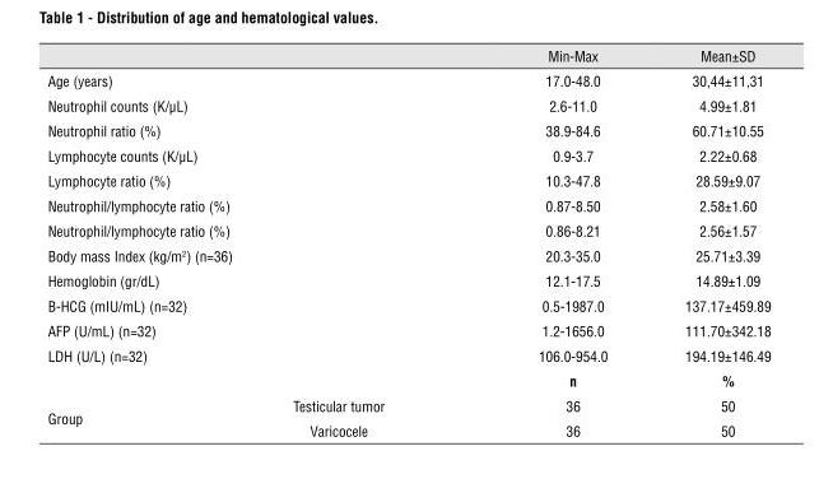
<table><thead><tr><td></td><td></td><td>Min-Max</td><td>Mean±SD</td></tr></thead><tbody><tr><td colspan="2">Age (years)</td><td>17.0-48.0</td><td>30,44±11,31</td></tr><tr><td colspan="2">Neutrophil counts (K/µL)</td><td>2.6-11.0</td><td>4.99±1.81</td></tr><tr><td colspan="2">Neutrophil ratio (%)</td><td>38.9-84.6</td><td>60.71±10.55</td></tr><tr><td colspan="2">Lymphocyte counts (K/µL)</td><td>0.9-3.7</td><td>2.22±0.68</td></tr><tr><td colspan="2">Lymphocyte ratio (%)</td><td>10.3-47.8</td><td>28.59±9.07</td></tr><tr><td colspan="2">Neutrophil/lymphocyte ratio (%)</td><td>0.87-8.50</td><td>2.58±1.60</td></tr><tr><td colspan="2">Neutrophil/lymphocyte ratio (%)</td><td>0.86-8.21</td><td>2.56±1.57</td></tr><tr><td colspan="2">Body mass Index (kg/m<sup>2</sup>) (n=36)</td><td>20.3-35.0</td><td>25.71±3.39</td></tr><tr><td colspan="2">Hemoglobin (gr/dL)</td><td>12.1-17.5</td><td>14.89±1.09</td></tr><tr><td colspan="2">B-HCG (mIU/mL) (n=32)</td><td>0.5-1987.0</td><td>137.17±459.89</td></tr><tr><td colspan="2">AFP (U/mL) (n=32)</td><td>1.2-1656.0</td><td>111.70±342.18</td></tr><tr><td rowspan="2" colspan="2">LDH (U/L) (n=32)</td><td>106.0-954.0</td><td>194.19±146.49</td></tr><tr><td>n</td><td>%</td></tr><tr><td rowspan="2">Group</td><td>Testicular tumor</td><td>36</td><td>50</td></tr><tr><td>Varicocele</td><td>36</td><td>50</td></tr></tbody></table>